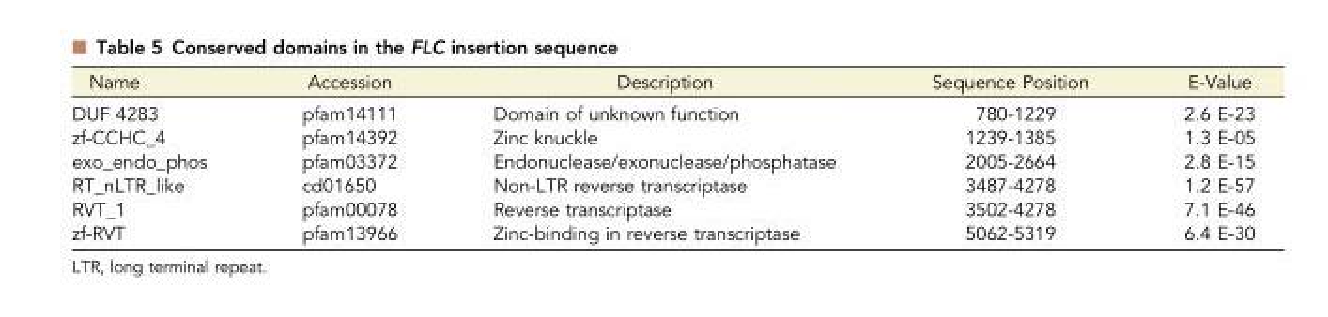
<table><thead><tr><td>Name</td><td>Accession</td><td>Description</td><td>Sequence Position</td><td>E-Value</td></tr></thead><tbody><tr><td>DUF 4283</td><td>pfam14111</td><td>Domain of unknown function</td><td>780-1229</td><td>2.6 E-23</td></tr><tr><td>zf-CCHC_4</td><td>pfam14392</td><td>Zinc knuckle</td><td>1239-1385</td><td>1.3 E-05</td></tr><tr><td>exo_endo_phos</td><td>pfam03372</td><td>Endonuclease/exonuclease/phosphatase</td><td>2005-2664</td><td>2.8 E-15</td></tr><tr><td>RT_nLTR_like</td><td>cd01650</td><td>Non-LTR reverse transcriptase</td><td>3487-4278</td><td>1.2 E-57</td></tr><tr><td>RVT_1</td><td>pfam00078</td><td>Reverse transcriptase</td><td>3502-4278</td><td>7.1 E-46</td></tr><tr><td>zf-RVT</td><td>pfam13966</td><td>Zinc-binding in reverse transcriptase</td><td>5062-5319</td><td>6.4 E-30</td></tr></tbody></table>